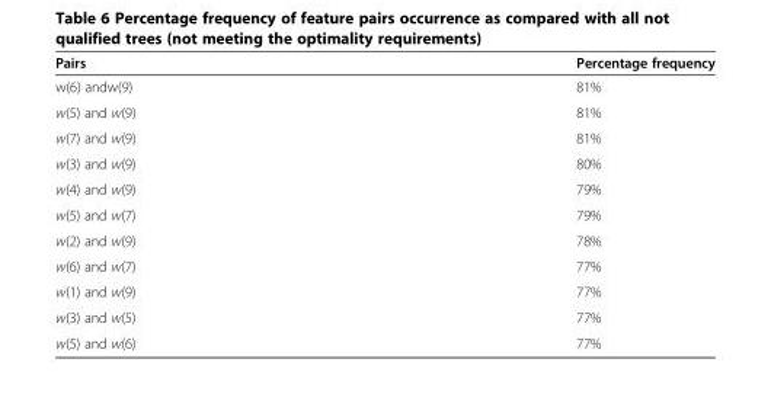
<table><thead><tr><td>Pairs</td><td>Percentage frequency</td></tr></thead><tbody><tr><td>w(6) andw(9)</td><td>81%</td></tr><tr><td>w(5) and w(9)</td><td>81%</td></tr><tr><td>w(7) and w(9)</td><td>81%</td></tr><tr><td>w(3) and w(9)</td><td>80%</td></tr><tr><td>w(4) and w(9)</td><td>79%</td></tr><tr><td>w(5) and w(7)</td><td>79%</td></tr><tr><td>w(2) and w(9)</td><td>78%</td></tr><tr><td>w(6) and w(7)</td><td>77%</td></tr><tr><td>w(1) and w(9)</td><td>77%</td></tr><tr><td>w(3) and w(5)</td><td>77%</td></tr><tr><td>w(5) and w(6)</td><td>77%</td></tr></tbody></table>